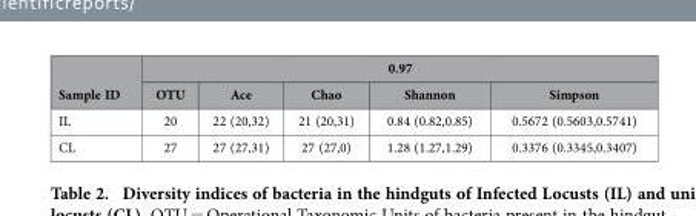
<table><thead><tr><td rowspan="2">Sample ID</td><td colspan="5">0.97</td></tr><tr><td>OTU</td><td>Ace</td><td>Chao</td><td>Shannon</td><td>Simpson</td></tr></thead><tbody><tr><td>IL</td><td>20</td><td>22 (20,32)</td><td>21 (20,31)</td><td>0.84 (0.82,0.85)</td><td>0.5672 (0.5603,0.5741)</td></tr><tr><td>CL</td><td>27</td><td>27 (27,31)</td><td>27 (27,0)</td><td>1.28 (1.27,1.29)</td><td>0.3376 (0.3345,0.3407)</td></tr></tbody></table>